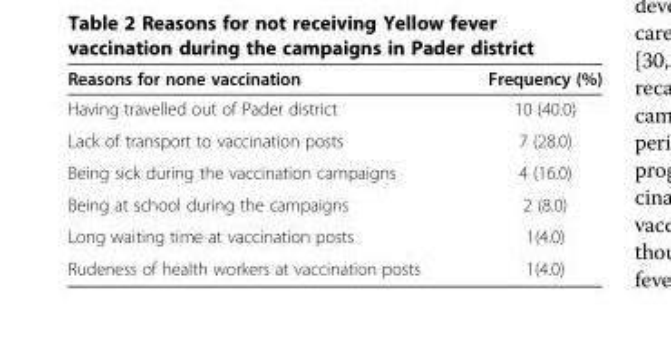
<table><thead><tr><td>Reasons for none vaccination</td><td>Frequency (%)</td></tr></thead><tbody><tr><td>Having travelled out of Pader district</td><td>10 (40.0)</td></tr><tr><td>Lack of transport to vaccination posts</td><td>7 (28.0)</td></tr><tr><td>Being sick during the vaccination campaigns</td><td>4 (16.0)</td></tr><tr><td>Being at school during the campaigns</td><td>2 (8.0)</td></tr><tr><td>Long waiting time at vaccination posts</td><td>1(4.0)</td></tr><tr><td>Rudeness of health workers at vaccination posts</td><td>1(4.0)</td></tr></tbody></table>